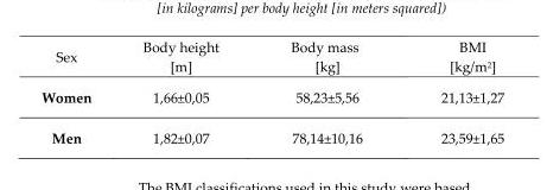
<table><thead><tr><td>Sex</td><td>Body height [m]</td><td>Body mass [kg]</td><td>BMI [kg/m<sup>2</sup>]</td></tr></thead><tbody><tr><td>Women</td><td>1,66±0,05</td><td>58,23±5,56</td><td>21,13±1,27</td></tr><tr><td>Men</td><td>1,82±0,07</td><td>78,14±10,16</td><td>23,59±1,65</td></tr></tbody></table>